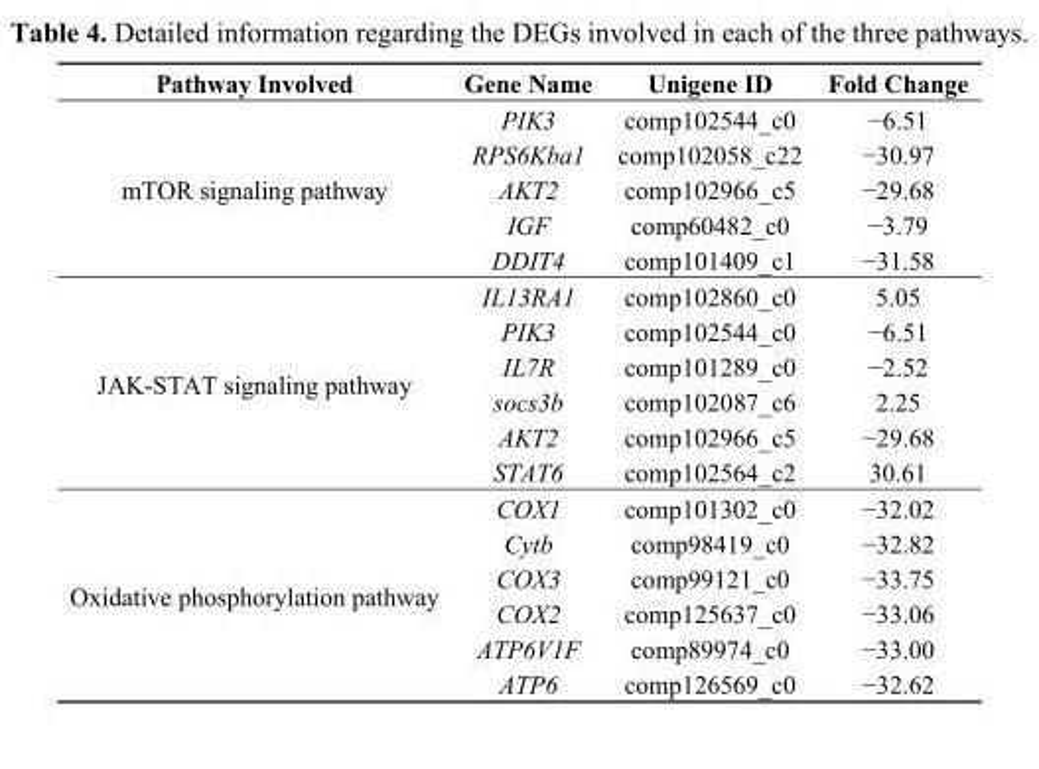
<table><thead><tr><td>Pathway Involved</td><td>Gene Name</td><td>Unigene ID</td><td>Fold Change</td></tr></thead><tbody><tr><td rowspan="5">mTOR signaling pathway</td><td>PIK3</td><td>comp102544_c0</td><td>−6.51</td></tr><tr><td>RPS6Kba1</td><td>comp102058_c22</td><td>−30.97</td></tr><tr><td>AKT2</td><td>comp102966_c5</td><td>−29.68</td></tr><tr><td>IGF</td><td>comp60482_c0</td><td>−3.79</td></tr><tr><td>DDIT4</td><td>comp101409_c1</td><td>−31.58</td></tr><tr><td rowspan="6">JAK-STAT signaling pathway</td><td>IL13RA1</td><td>comp102860_c0</td><td>5.05</td></tr><tr><td>PIK3</td><td>comp102544_c0</td><td>−6.51</td></tr><tr><td>IL7R</td><td>comp101289_c0</td><td>−2.52</td></tr><tr><td>socs3b</td><td>comp102087_c6</td><td>2.25</td></tr><tr><td>AKT2</td><td>comp102966_c5</td><td>−29.68</td></tr><tr><td>STAT6</td><td>comp102564_c2</td><td>30.61</td></tr><tr><td rowspan="6">Oxidative phosphorylation pathway</td><td>COX1</td><td>comp101302_c0</td><td>−32.02</td></tr><tr><td>Cytb</td><td>comp98419_c0</td><td>−32.82</td></tr><tr><td>COX3</td><td>comp99121_c0</td><td>−33.75</td></tr><tr><td>COX2</td><td>comp125637_c0</td><td>−33.06</td></tr><tr><td>ATP6V1F</td><td>comp89974_c0</td><td>−33.00</td></tr><tr><td>ATP6</td><td>comp126569_c0</td><td>−32.62</td></tr></tbody></table>